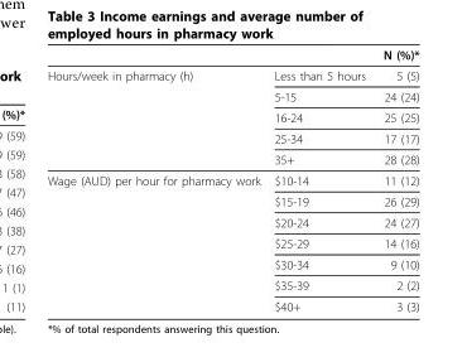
<table><thead><tr><td colspan="3">N (%)*</td></tr><tr><td>Hours/week in pharmacy (h)</td><td>Less than 5 hours</td><td>5 (5)</td></tr></thead><tbody><tr><td></td><td>5-15</td><td>24 (24)</td></tr><tr><td></td><td>16-24</td><td>25 (25)</td></tr><tr><td></td><td>25-34</td><td>17 (17)</td></tr><tr><td></td><td>35+</td><td>28 (28)</td></tr><tr><td rowspan="7">Wage (AUD) per hour for pharmacy work</td><td>$10-14</td><td>11 (12)</td></tr><tr><td>$15-19</td><td>26 (29)</td></tr><tr><td>$20-24</td><td>24 (27)</td></tr><tr><td>$25-29</td><td>14 (16)</td></tr><tr><td>$30-34</td><td>9 (10)</td></tr><tr><td>$35-39</td><td>2 (2)</td></tr><tr><td>$40+</td><td>3 (3)</td></tr></tbody></table>